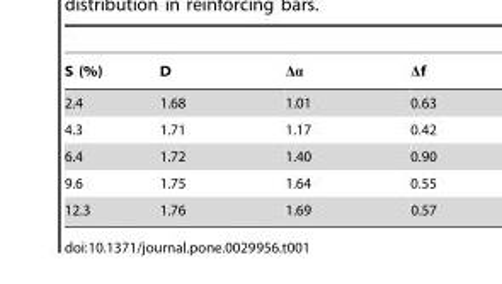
<table><thead><tr><td>S (%)</td><td>D</td><td>Δα</td><td>Δf</td></tr></thead><tbody><tr><td>2.4</td><td>1.68</td><td>1.01</td><td>0.63</td></tr><tr><td>4.3</td><td>1.71</td><td>1.17</td><td>0.42</td></tr><tr><td>6.4</td><td>1.72</td><td>1.40</td><td>0.90</td></tr><tr><td>9.6</td><td>1.75</td><td>1.64</td><td>0.55</td></tr><tr><td>12.3</td><td>1.76</td><td>1.69</td><td>0.57</td></tr></tbody></table>